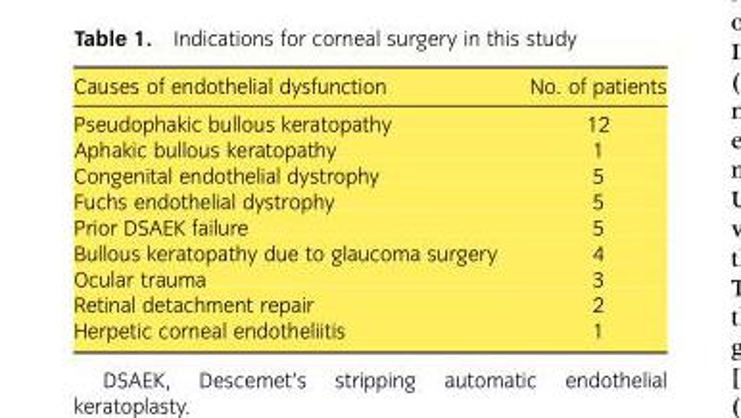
<table><thead><tr><td>Causes of endothelial dysfunction</td><td>No. of patients</td></tr></thead><tbody><tr><td>Pseudophakic bullous keratopathy</td><td>12</td></tr><tr><td>Aphakic bullous keratopathy</td><td>1</td></tr><tr><td>Congenital endothelial dystrophy</td><td>5</td></tr><tr><td>Fuchs endothelial dystrophy</td><td>5</td></tr><tr><td>Prior DSAEK failure</td><td>5</td></tr><tr><td>Bullous keratopathy due to glaucoma surgery</td><td>4</td></tr><tr><td>Ocular trauma</td><td>3</td></tr><tr><td>Retinal detachment repair</td><td>2</td></tr><tr><td>Herpetic corneal endotheliitis</td><td>1</td></tr></tbody></table>